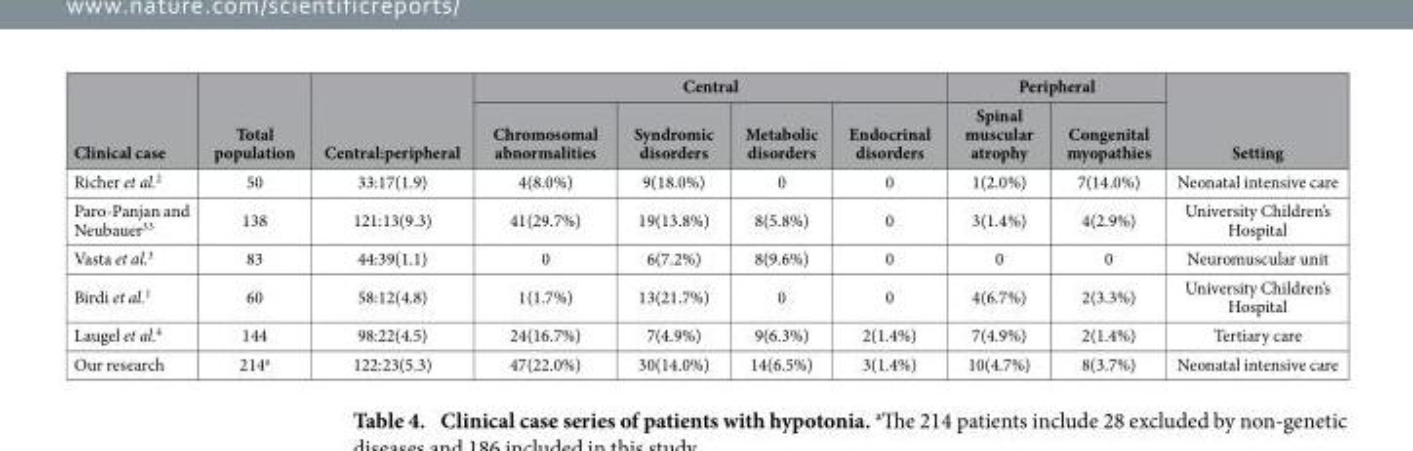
<table><thead><tr><td rowspan="2">Clinical case</td><td rowspan="2">Total population</td><td rowspan="2">Central:peripheral</td><td colspan="4">Central</td><td colspan="2">Peripheral</td><td rowspan="2">Setting</td></tr><tr><td>Chromosomal abnormalities</td><td>Syndromic disorders</td><td>Metabolic disorders</td><td>Endocrinal disorders</td><td>Spinal muscular atrophy</td><td>Congenital myopathies</td></tr></thead><tbody><tr><td>Richer et al.<sup>2</sup></td><td>50</td><td>33:17(1.9)</td><td>4(8.0%)</td><td>9(18.0%)</td><td>0</td><td>0</td><td>1(2.0%)</td><td>7(14.0%)</td><td>Neonatal intensive care</td></tr><tr><td>Paro-Panjan and Neubauer<sup>33</sup></td><td>138</td><td>121:13(9.3)</td><td>41(29.7%)</td><td>19(13.8%)</td><td>8(5.8%)</td><td>0</td><td>3(1.4%)</td><td>4(2.9%)</td><td>University Children’s Hospital</td></tr><tr><td>Vasta et al.<sup>3</sup></td><td>83</td><td>44:39(1.1)</td><td>0</td><td>6(7.2%)</td><td>8(9.6%)</td><td>0</td><td>0</td><td>0</td><td>Neuromuscular unit</td></tr><tr><td>Birdi et al.<sup>1</sup></td><td>60</td><td>58:12(4.8)</td><td>1(1.7%)</td><td>13(21.7%)</td><td>0</td><td>0</td><td>4(6.7%)</td><td>2(3.3%)</td><td>University Children’s Hospital</td></tr><tr><td>Laugel et al.<sup>4</sup></td><td>144</td><td>98:22(4.5)</td><td>24(16.7%)</td><td>7(4.9%)</td><td>9(6.3%)</td><td>2(1.4%)</td><td>7(4.9%)</td><td>2(1.4%)</td><td>Tertiary care</td></tr><tr><td>Our research</td><td>214<sup>a</sup></td><td>122:23(5.3)</td><td>47(22.0%)</td><td>30(14.0%)</td><td>14(6.5%)</td><td>3(1.4%)</td><td>10(4.7%)</td><td>8(3.7%)</td><td>Neonatal intensive care</td></tr></tbody></table>